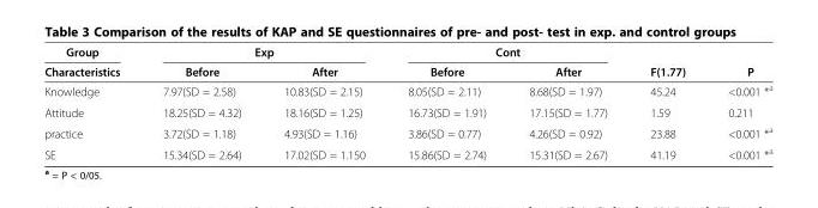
<table><thead><tr><td rowspan="2">Group Characteristics</td><td colspan="2">Exp</td><td colspan="2">Cont</td><td rowspan="2">F(1.77)</td><td rowspan="2">P</td></tr><tr><td>Before</td><td>After</td><td>Before</td><td>After</td></tr></thead><tbody><tr><td>Knowledge</td><td>7.97(SD = 2.58)</td><td>10.83(SD = 2.15)</td><td>8.05(SD = 2.11)</td><td>8.68(SD = 1.97)</td><td>45.24</td><td>&lt;0.001 *<sup>a</sup></td></tr><tr><td>Attitude</td><td>18.25(SD = 4.32)</td><td>18.16(SD = 1.25)</td><td>16.73(SD = 1.91)</td><td>17.15(SD = 1.77)</td><td>1.59</td><td>0.211</td></tr><tr><td>practice</td><td>3.72(SD = 1.18)</td><td>4.93(SD = 1.16)</td><td>3.86(SD = 0.77)</td><td>4.26(SD = 0.92)</td><td>23.88</td><td>&lt;0.001 *<sup>a</sup></td></tr><tr><td>SE</td><td>15.34(SD = 2.64)</td><td>17.02(SD = 1.150</td><td>15.86(SD = 2.74)</td><td>15.31(SD = 2.67)</td><td>41.19</td><td>&lt;0.001 *<sup>a</sup></td></tr></tbody></table>